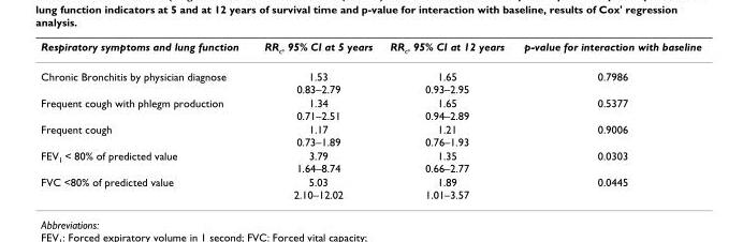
<table><thead><tr><td>Respiratory symptoms and lung function</td><td>RR<sub>c</sub>, 95% CI at 5 years</td><td>RR<sub>c</sub>, 95% CI at 12 years</td><td>p-value for interaction with baseline</td></tr></thead><tbody><tr><td>Chronic Bronchitis by physician diagnose</td><td>1.53 0.83–2.79</td><td>1.65 0.93–2.95</td><td>0.7986</td></tr><tr><td>Frequent cough with phlegm production</td><td>1.34 0.71–2.51</td><td>1.65 0.94–2.89</td><td>0.5377</td></tr><tr><td>Frequent cough</td><td>1.17 0.73–1.89</td><td>1.21 0.76–1.93</td><td>0.9006</td></tr><tr><td>FEV<sub>1</sub> &lt; 80% of predicted value</td><td>3.79 1.64–8.74</td><td>1.35 0.66–2.77</td><td>0.0303</td></tr><tr><td>FVC &lt;80% of predicted value</td><td>5.03 2.10–12.02</td><td>1.89 1.01–3.57</td><td>0.0445</td></tr></tbody></table>